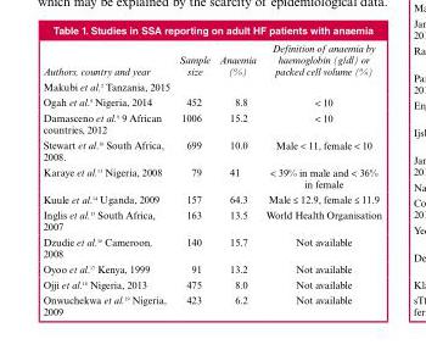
<table><thead><tr><td>Authors, country and year</td><td>Sample size</td><td>Anaemia (%)</td><td>Definition of anaemia by haemoglobin (g/dl) or packed cell volume (%)</td></tr></thead><tbody><tr><td colspan="4">Makubi et al.<sup>2</sup> Tanzania, 2015</td></tr><tr><td>Ogah et al.<sup>9</sup> Nigeria, 2014</td><td>452</td><td>8.8</td><td>&lt; 10</td></tr><tr><td>Damasceno et al.<sup>8</sup> 9 African countries, 2012</td><td>1006</td><td>15.2</td><td>&lt; 10</td></tr><tr><td>Stewart et al.<sup>10</sup> South Africa, 2008.</td><td>699</td><td>10.0</td><td>Male &lt; 11, female &lt; 10</td></tr><tr><td>Karaye et al.<sup>13</sup> Nigeria, 2008</td><td>79</td><td>41</td><td>&lt; 39% in male and &lt; 36% in female</td></tr><tr><td>Kuule et al.<sup>14</sup> Uganda, 2009</td><td>157</td><td>64.3</td><td>Male ≤ 12.9, female ≤ 11.9</td></tr><tr><td>Inglis et al.<sup>15</sup> South Africa, 2007</td><td>163</td><td>13.5</td><td>World Health Organisation</td></tr><tr><td>Dzudie et al.16 Cameroon, 2008</td><td>140</td><td>15.7</td><td>Not available</td></tr><tr><td>Oyoo et al.<sup>17</sup> Kenya, 1999</td><td>91</td><td>13.2</td><td>Not available</td></tr><tr><td>Ojji et al.<sup>18</sup> Nigeria, 2013</td><td>475</td><td>8.0</td><td>Not available</td></tr><tr><td>Onwuchekwa et al.<sup>19</sup> Nigeria, 2009</td><td>423</td><td>6.2</td><td>Not available</td></tr></tbody></table>